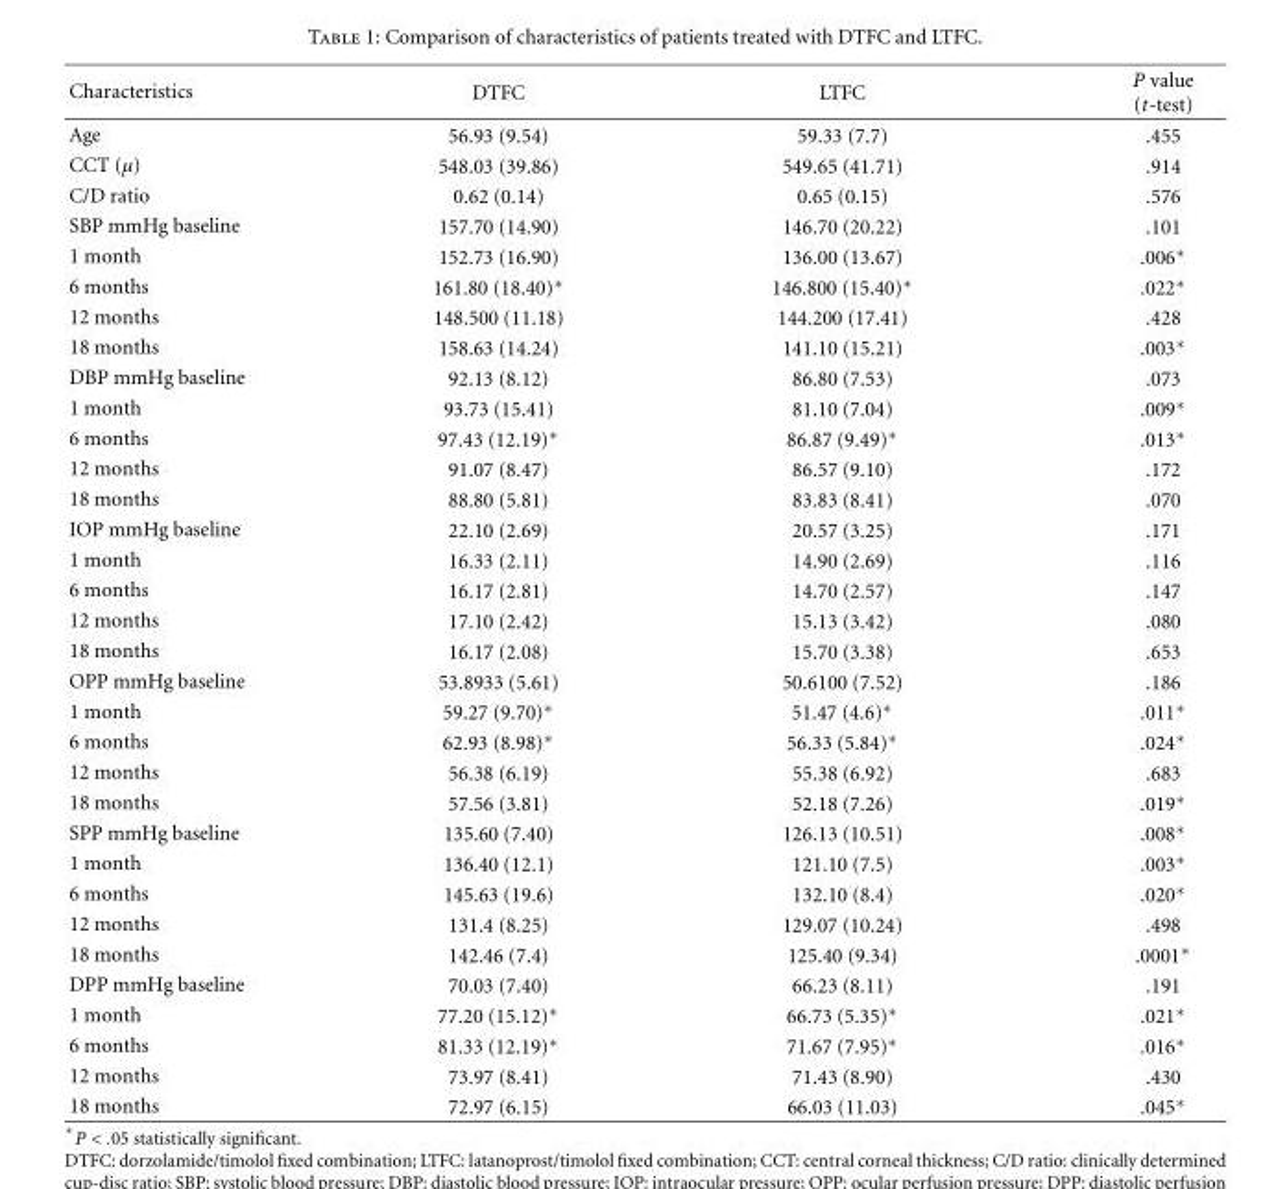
<table><thead><tr><td>Characteristics</td><td>DTFC</td><td>LTFC</td><td>P value (t-test)</td></tr></thead><tbody><tr><td>Age</td><td>56.93 (9.54)</td><td>59.33 (7.7)</td><td>.455</td></tr><tr><td>CCT (μ)</td><td>548.03 (39.86)</td><td>549.65 (41.71)</td><td>.914</td></tr><tr><td>C/D ratio</td><td>0.62 (0.14)</td><td>0.65 (0.15)</td><td>.576</td></tr><tr><td>SBP mmHg baseline</td><td>157.70 (14.90)</td><td>146.70 (20.22)</td><td>.101</td></tr><tr><td>1 month</td><td>152.73 (16.90)</td><td>136.00 (13.67)</td><td>.006∗</td></tr><tr><td>6 months</td><td>161.80 (18.40)∗</td><td>146.800 (15.40)∗</td><td>.022∗</td></tr><tr><td>12 months</td><td>148.500 (11.18)</td><td>144.200 (17.41)</td><td>.428</td></tr><tr><td>18 months</td><td>158.63 (14.24)</td><td>141.10 (15.21)</td><td>.003∗</td></tr><tr><td>DBP mmHg baseline</td><td>92.13 (8.12)</td><td>86.80 (7.53)</td><td>.073</td></tr><tr><td>1 month</td><td>93.73 (15.41)</td><td>81.10 (7.04)</td><td>.009∗</td></tr><tr><td>6 months</td><td>97.43 (12.19)∗</td><td>86.87 (9.49)∗</td><td>.013∗</td></tr><tr><td>12 months</td><td>91.07 (8.47)</td><td>86.57 (9.10)</td><td>.172</td></tr><tr><td>18 months</td><td>88.80 (5.81)</td><td>83.83 (8.41)</td><td>.070</td></tr><tr><td>IOP mmHg baseline</td><td>22.10 (2.69)</td><td>20.57 (3.25)</td><td>.171</td></tr><tr><td>1 month</td><td>16.33 (2.11)</td><td>14.90 (2.69)</td><td>.116</td></tr><tr><td>6 months</td><td>16.17 (2.81)</td><td>14.70 (2.57)</td><td>.147</td></tr><tr><td>12 months</td><td>17.10 (2.42)</td><td>15.13 (3.42)</td><td>.080</td></tr><tr><td>18 months</td><td>16.17 (2.08)</td><td>15.70 (3.38)</td><td>.653</td></tr><tr><td>OPP mmHg baseline</td><td>53.8933 (5.61)</td><td>50.6100 (7.52)</td><td>.186</td></tr><tr><td>1 month</td><td>59.27 (9.70)∗</td><td>51.47 (4.6)∗</td><td>.011∗</td></tr><tr><td>6 months</td><td>62.93 (8.98)∗</td><td>56.33 (5.84)∗</td><td>.024∗</td></tr><tr><td>12 months</td><td>56.38 (6.19)</td><td>55.38 (6.92)</td><td>.683</td></tr><tr><td>18 months</td><td>57.56 (3.81)</td><td>52.18 (7.26)</td><td>.019∗</td></tr><tr><td>SPP mmHg baseline</td><td>135.60 (7.40)</td><td>126.13 (10.51)</td><td>.008∗</td></tr><tr><td>1 month</td><td>136.40 (12.1)</td><td>121.10 (7.5)</td><td>.003∗</td></tr><tr><td>6 months</td><td>145.63 (19.6)</td><td>132.10 (8.4)</td><td>.020∗</td></tr><tr><td>12 months</td><td>131.4 (8.25)</td><td>129.07 (10.24)</td><td>.498</td></tr><tr><td>18 months</td><td>142.46 (7.4)</td><td>125.40 (9.34)</td><td>.0001∗</td></tr><tr><td>DPP mmHg baseline</td><td>70.03 (7.40)</td><td>66.23 (8.11)</td><td>.191</td></tr><tr><td>1 month</td><td>77.20 (15.12)∗</td><td>66.73 (5.35)∗</td><td>.021∗</td></tr><tr><td>6 months</td><td>81.33 (12.19)∗</td><td>71.67 (7.95)∗</td><td>.016∗</td></tr><tr><td>12 months</td><td>73.97 (8.41)</td><td>71.43 (8.90)</td><td>.430</td></tr><tr><td>18 months</td><td>72.97 (6.15)</td><td>66.03 (11.03)</td><td>.045∗</td></tr></tbody></table>